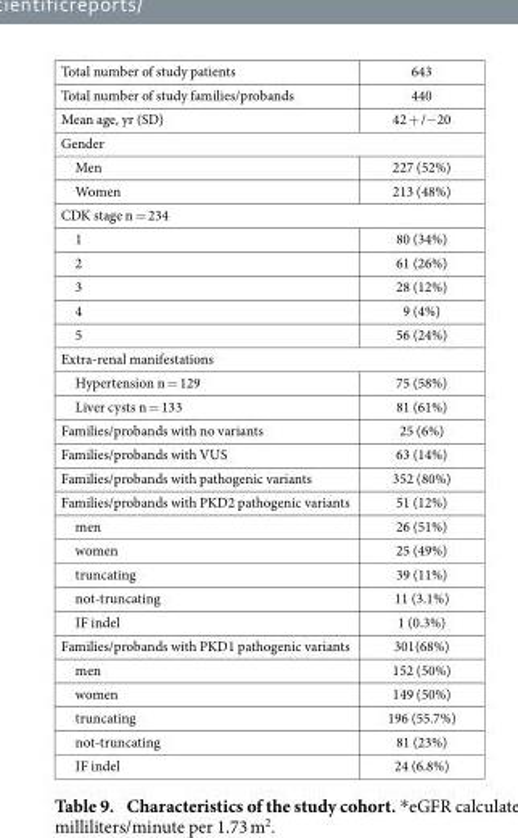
<table><tbody><tr><td>Total number of study patients</td><td>643</td></tr><tr><td>Total number of study families/probands</td><td>440</td></tr><tr><td>Mean age, yr (SD)</td><td>42 + /− 20</td></tr><tr><td colspan="2">Gender</td></tr><tr><td>Men</td><td>227 (52%)</td></tr><tr><td>Women</td><td>213 (48%)</td></tr><tr><td colspan="2">CDK stage n = 234</td></tr><tr><td>1</td><td>80 (34%)</td></tr><tr><td>2</td><td>61 (26%)</td></tr><tr><td>3</td><td>28 (12%)</td></tr><tr><td>4</td><td>9 (4%)</td></tr><tr><td>5</td><td>56 (24%)</td></tr><tr><td colspan="2">Extra-renal manifestations</td></tr><tr><td>Hypertension n = 129</td><td>75 (58%)</td></tr><tr><td>Liver cysts n = 133</td><td>81 (61%)</td></tr><tr><td>Families/probands with no variants</td><td>25 (6%)</td></tr><tr><td>Families/probands with VUS</td><td>63 (14%)</td></tr><tr><td>Families/probands with pathogenic variants</td><td>352 (80%)</td></tr><tr><td>Families/probands with PKD2 pathogenic variants</td><td>51 (12%)</td></tr><tr><td>men</td><td>26 (51%)</td></tr><tr><td>women</td><td>25 (49%)</td></tr><tr><td>truncating</td><td>39 (11%)</td></tr><tr><td>not-truncating</td><td>11 (3.1%)</td></tr><tr><td>IF indel</td><td>1 (0.3%)</td></tr><tr><td>Families/probands with PKD1 pathogenic variants</td><td>301(68%)</td></tr><tr><td>men</td><td>152 (50%)</td></tr><tr><td>women</td><td>149 (50%)</td></tr><tr><td>truncating</td><td>196 (55.7%)</td></tr><tr><td>not-truncating</td><td>81 (23%)</td></tr><tr><td>IF indel</td><td>24 (6.8%)</td></tr></tbody></table>